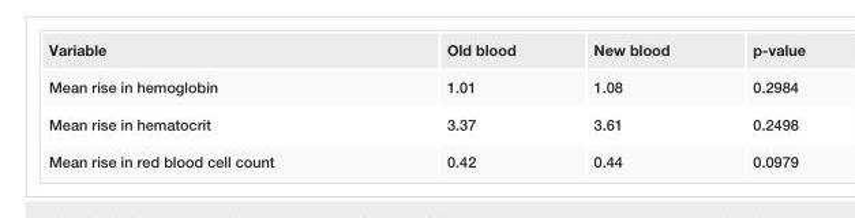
<table><tbody><tr><td>Variable</td><td>Old blood</td><td>New blood</td><td>p-value</td></tr><tr><td>Mean rise in hemoglobin</td><td>1.01</td><td>1.08</td><td>0.2984</td></tr><tr><td>Mean rise in hematocrit</td><td>3.37</td><td>3.61</td><td>0.2498</td></tr><tr><td>Mean rise in red blood cell count</td><td>0.42</td><td>0.44</td><td>0.0979</td></tr></tbody></table>